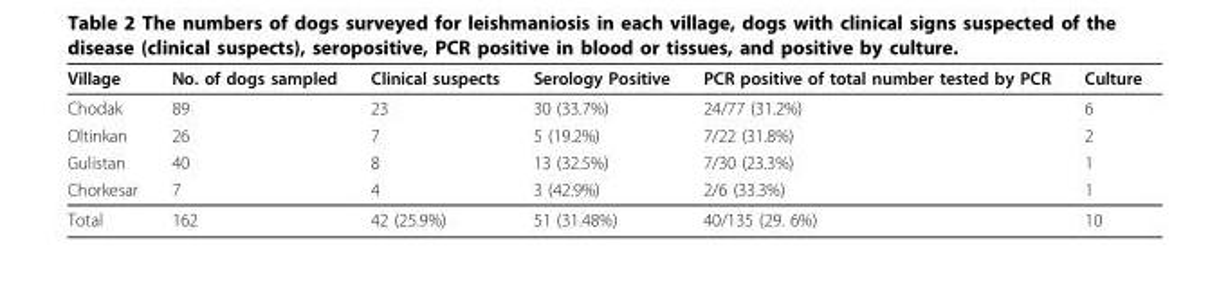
<table><thead><tr><td>Village</td><td>No. of dogs sampled</td><td>Clinical suspects</td><td>Serology Positive</td><td>PCR positive of total number tested by PCR</td><td>Culture</td></tr></thead><tbody><tr><td>Chodak</td><td>89</td><td>23</td><td>30 (33.7%)</td><td>24/77 (31.2%)</td><td>6</td></tr><tr><td>Oltinkan</td><td>26</td><td>7</td><td>5 (19.2%)</td><td>7/22 (31.8%)</td><td>2</td></tr><tr><td>Gulistan</td><td>40</td><td>8</td><td>13 (32.5%)</td><td>7/30 (23.3%)</td><td>1</td></tr><tr><td>Chorkesar</td><td>7</td><td>4</td><td>3 (42.9%)</td><td>2/6 (33.3%)</td><td>1</td></tr><tr><td>Total</td><td>162</td><td>42 (25.9%)</td><td>51 (31.48%)</td><td>40/135 (29. 6%)</td><td>10</td></tr></tbody></table>